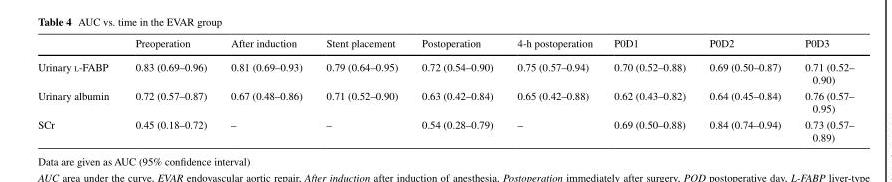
<table><thead><tr><td></td><td>Preoperation</td><td>After induction</td><td>Stent placement</td><td>Postoperation</td><td>4-h postoperation</td><td>P0D1</td><td>P0D2</td><td>P0D3</td></tr></thead><tbody><tr><td>Urinary l-FABP</td><td>0.83 (0.69–0.96)</td><td>0.81 (0.69–0.93)</td><td>0.79 (0.64–0.95)</td><td>0.72 (0.54–0.90)</td><td>0.75 (0.57–0.94)</td><td>0.70 (0.52–0.88)</td><td>0.69 (0.50–0.87)</td><td>0.71 (0.52– 0.90)</td></tr><tr><td>Urinary albumin</td><td>0.72 (0.57–0.87)</td><td>0.67 (0.48–0.86)</td><td>0.71 (0.52–0.90)</td><td>0.63 (0.42–0.84)</td><td>0.65 (0.42–0.88)</td><td>0.62 (0.43–0.82)</td><td>0.64 (0.45–0.84)</td><td>0.76 (0.57– 0.95)</td></tr><tr><td>SCr</td><td>0.45 (0.18–0.72)</td><td>–</td><td>–</td><td>0.54 (0.28–0.79)</td><td>–</td><td>0.69 (0.50–0.88)</td><td>0.84 (0.74–0.94)</td><td>0.73 (0.57– 0.89)</td></tr></tbody></table>